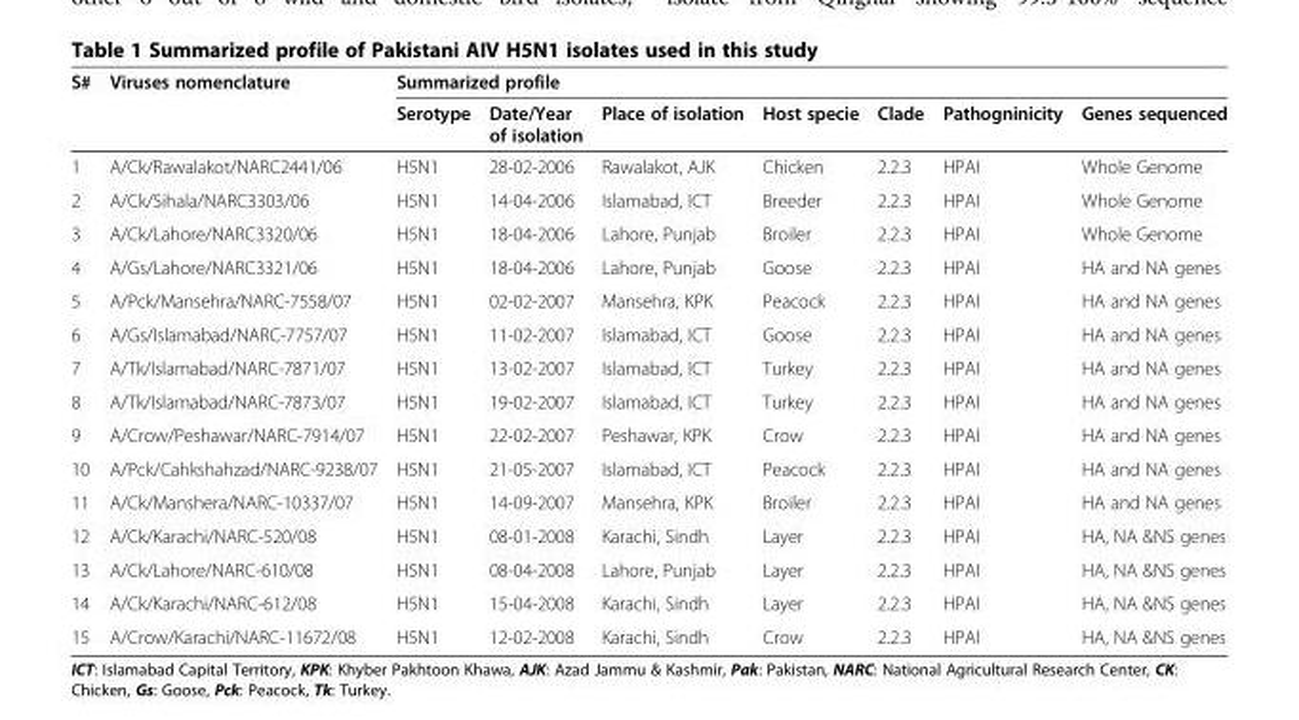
<table><thead><tr><td rowspan="2">S#</td><td rowspan="2">Viruses nomenclature</td><td colspan="7">Summarized profile</td></tr><tr><td>Serotype</td><td>Date/Year of isolation</td><td>Place of isolation</td><td>Host specie</td><td>Clade</td><td>Pathogninicity</td><td>Genes sequenced</td></tr></thead><tbody><tr><td>1</td><td>A/Ck/Rawalakot/NARC2441/06</td><td>H5N1</td><td>28-02-2006</td><td>Rawalakot, AJK</td><td>Chicken</td><td>2.2.3</td><td>HPAI</td><td>Whole Genome</td></tr><tr><td>2</td><td>A/Ck/Sihala/NARC3303/06</td><td>H5N1</td><td>14-04-2006</td><td>Islamabad, ICT</td><td>Breeder</td><td>2.2.3</td><td>HPAI</td><td>Whole Genome</td></tr><tr><td>3</td><td>A/Ck/Lahore/NARC3320/06</td><td>H5N1</td><td>18-04-2006</td><td>Lahore, Punjab</td><td>Broiler</td><td>2.2.3</td><td>HPAI</td><td>Whole Genome</td></tr><tr><td>4</td><td>A/Gs/Lahore/NARC3321/06</td><td>H5N1</td><td>18-04-2006</td><td>Lahore, Punjab</td><td>Goose</td><td>2.2.3</td><td>HPAI</td><td>HA and NA genes</td></tr><tr><td>5</td><td>A/Pck/Mansehra/NARC-7558/07</td><td>H5N1</td><td>02-02-2007</td><td>Mansehra, KPK</td><td>Peacock</td><td>2.2.3</td><td>HPAI</td><td>HA and NA genes</td></tr><tr><td>6</td><td>A/Gs/Islamabad/NARC-7757/07</td><td>H5N1</td><td>11-02-2007</td><td>Islamabad, ICT</td><td>Goose</td><td>2.2.3</td><td>HPAI</td><td>HA and NA genes</td></tr><tr><td>7</td><td>A/Tk/Islamabad/NARC-7871/07</td><td>H5N1</td><td>13-02-2007</td><td>Islamabad, ICT</td><td>Turkey</td><td>2.2.3</td><td>HPAI</td><td>HA and NA genes</td></tr><tr><td>8</td><td>A/Tk/Islamabad/NARC-7873/07</td><td>H5N1</td><td>19-02-2007</td><td>Islamabad, ICT</td><td>Turkey</td><td>2.2.3</td><td>HPAI</td><td>HA and NA genes</td></tr><tr><td>9</td><td>A/Crow/Peshawar/NARC-7914/07</td><td>H5N1</td><td>22-02-2007</td><td>Peshawar, KPK</td><td>Crow</td><td>2.2.3</td><td>HPAI</td><td>HA and NA genes</td></tr><tr><td>10</td><td>A/Pck/Cahkshahzad/NARC-9238/07</td><td>H5N1</td><td>21-05-2007</td><td>Islamabad, ICT</td><td>Peacock</td><td>2.2.3</td><td>HPAI</td><td>HA and NA genes</td></tr><tr><td>11</td><td>A/Ck/Manshera/NARC-10337/07</td><td>H5N1</td><td>14-09-2007</td><td>Mansehra, KPK</td><td>Broiler</td><td>2.2.3</td><td>HPAI</td><td>HA and NA genes</td></tr><tr><td>12</td><td>A/Ck/Karachi/NARC-520/08</td><td>H5N1</td><td>08-01-2008</td><td>Karachi, Sindh</td><td>Layer</td><td>2.2.3</td><td>HPAI</td><td>HA, NA &amp;NS genes</td></tr><tr><td>13</td><td>A/Ck/Lahore/NARC-610/08</td><td>H5N1</td><td>08-04-2008</td><td>Lahore, Punjab</td><td>Layer</td><td>2.2.3</td><td>HPAI</td><td>HA, NA &amp;NS genes</td></tr><tr><td>14</td><td>A/Ck/Karachi/NARC-612/08</td><td>H5N1</td><td>15-04-2008</td><td>Karachi, Sindh</td><td>Layer</td><td>2.2.3</td><td>HPAI</td><td>HA, NA &amp;NS genes</td></tr><tr><td>15</td><td>A/Crow/Karachi/NARC-11672/08</td><td>H5N1</td><td>12-02-2008</td><td>Karachi, Sindh</td><td>Crow</td><td>2.2.3</td><td>HPAI</td><td>HA, NA &amp;NS genes</td></tr></tbody></table>